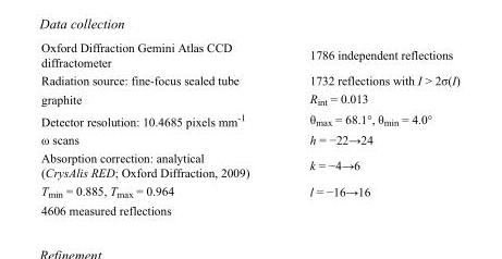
<table><tbody><tr><td>Oxford Diffraction Gemini Atlas CCD diffractometer</td><td>1786 independent reflections</td></tr><tr><td>Radiation source: fine-focus sealed tube</td><td>1732 reflections with I &gt; 2σ(I)</td></tr><tr><td>graphite</td><td>R<sub>int</sub> = 0.013</td></tr><tr><td>Detector resolution: 10.4685 pixels mm<sup>-1</sup></td><td>θ<sub>max</sub> = 68.1°, θ<sub>min</sub> = 4.0°</td></tr><tr><td>ω scans</td><td>h = −22→24</td></tr><tr><td>Absorption correction: analytical (CrysAlis RED; Oxford Diffraction, 2009)</td><td>k = −4→6</td></tr><tr><td>T<sub>min</sub> = 0.885, T<sub>max</sub> = 0.964</td><td>l = −16→16</td></tr><tr><td>4606 measured reflections</td><td></td></tr></tbody></table>